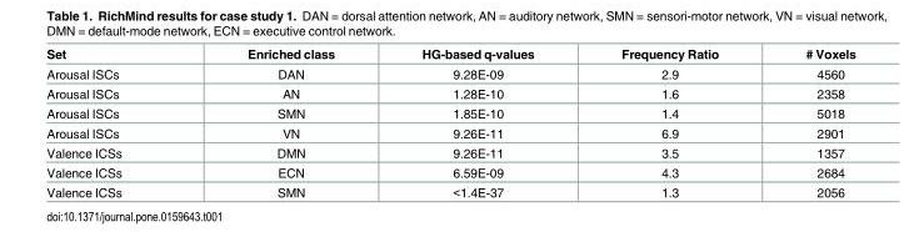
<table><thead><tr><td>Set</td><td>Enriched class</td><td>HG-based q-values</td><td>Frequency Ratio</td><td># Voxels</td></tr></thead><tbody><tr><td>Arousal ISCs</td><td>DAN</td><td>9.28E-09</td><td>2.9</td><td>4560</td></tr><tr><td>Arousal ISCs</td><td>AN</td><td>1.28E-10</td><td>1.6</td><td>2358</td></tr><tr><td>Arousal ISCs</td><td>SMN</td><td>1.85E-10</td><td>1.4</td><td>5018</td></tr><tr><td>Arousal ISCs</td><td>VN</td><td>9.26E-11</td><td>6.9</td><td>2901</td></tr><tr><td>Valence ICSs</td><td>DMN</td><td>9.26E-11</td><td>3.5</td><td>1357</td></tr><tr><td>Valence ICSs</td><td>ECN</td><td>6.59E-09</td><td>4.3</td><td>2684</td></tr><tr><td>Valence ICSs</td><td>SMN</td><td>&lt;1.4E-37</td><td>1.3</td><td>2056</td></tr></tbody></table>